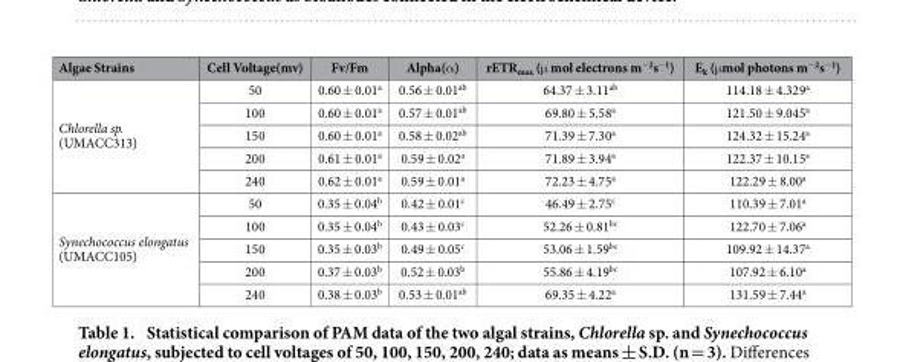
<table><thead><tr><td>Algae Strains</td><td>Cell Voltage(mv)</td><td>Fv/Fm</td><td>Alpha(α )</td><td>rETR<sub>max</sub> (μ mol electrons m<sup>−2</sup>s<sup>−1</sup>)</td><td>E<sub>k</sub> (μ mol photons m<sup>−2</sup>s<sup>−1</sup>)</td></tr></thead><tbody><tr><td rowspan="5">Chlorella sp. (UMACC313)</td><td>50</td><td>0.60 ± 0.01<sup>a</sup></td><td>0.56 ± 0.01<sup>ab</sup></td><td>64.37 ± 3.11<sup>ab</sup></td><td>114.18 ± 4.329<sup>a</sup></td></tr><tr><td>100</td><td>0.60 ± 0.01<sup>a</sup></td><td>0.57 ± 0.01<sup>ab</sup></td><td>69.80 ± 5.58<sup>a</sup></td><td>121.50 ± 9.045<sup>a</sup></td></tr><tr><td>150</td><td>0.60 ± 0.01<sup>a</sup></td><td>0.58 ± 0.02<sup>ab</sup></td><td>71.39 ± 7.30<sup>a</sup></td><td>124.32 ± 15.24<sup>a</sup></td></tr><tr><td>200</td><td>0.61 ± 0.01<sup>a</sup></td><td>0.59 ± 0.02<sup>a</sup></td><td>71.89 ± 3.94<sup>a</sup></td><td>122.37 ± 10.15<sup>a</sup></td></tr><tr><td>240</td><td>0.62 ± 0.01<sup>a</sup></td><td>0.59 ± 0.01<sup>a</sup></td><td>72.23 ± 4.75<sup>a</sup></td><td>122.29 ± 8.00<sup>a</sup></td></tr><tr><td rowspan="5">Synechococcus elongatus (UMACC105)</td><td>50</td><td>0.35 ± 0.04<sup>b</sup></td><td>0.42 ± 0.01<sup>c</sup></td><td>46.49 ± 2.75<sup>c</sup></td><td>110.39 ± 7.01<sup>a</sup></td></tr><tr><td>100</td><td>0.35 ± 0.04<sup>b</sup></td><td>0.43 ± 0.03<sup>c</sup></td><td>52.26 ± 0.81<sup>bc</sup></td><td>122.70 ± 7.06<sup>a</sup></td></tr><tr><td>150</td><td>0.35 ± 0.03<sup>b</sup></td><td>0.49 ± 0.05<sup>c</sup></td><td>53.06 ± 1.59<sup>bc</sup></td><td>109.92 ± 14.37<sup>a</sup></td></tr><tr><td>200</td><td>0.37 ± 0.03<sup>b</sup></td><td>0.52 ± 0.03<sup>b</sup></td><td>55.86 ± 4.19<sup>bc</sup></td><td>107.92 ± 6.10<sup>a</sup></td></tr><tr><td>240</td><td>0.38 ± 0.03<sup>b</sup></td><td>0.53 ± 0.01<sup>ab</sup></td><td>69.35 ± 4.22<sup>a</sup></td><td>131.59 ± 7.44<sup>a</sup></td></tr></tbody></table>